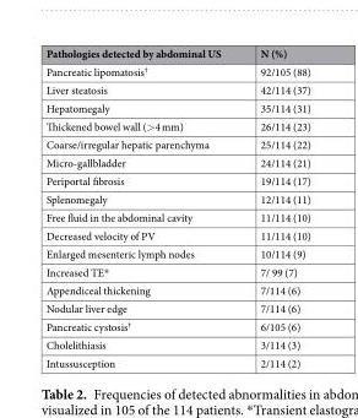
<table><thead><tr><td>Pathologies detected by abdominal US</td><td>N (%)</td></tr></thead><tbody><tr><td>Pancreatic lipomatosis<sup>†</sup></td><td>92/105 (88)</td></tr><tr><td>Liver steatosis</td><td>42/114 (37)</td></tr><tr><td>Hepatomegaly</td><td>35/114 (31)</td></tr><tr><td>Thickened bowel wall (&gt;4 mm)</td><td>26/114 (23)</td></tr><tr><td>Coarse/irregular hepatic parenchyma</td><td>25/114 (22)</td></tr><tr><td>Micro-gallbladder</td><td>24/114 (21)</td></tr><tr><td>Periportal fibrosis</td><td>19/114 (17)</td></tr><tr><td>Splenomegaly</td><td>12/114 (11)</td></tr><tr><td>Free fluid in the abdominal cavity</td><td>11/114 (10)</td></tr><tr><td>Decreased velocity of PV</td><td>11/114 (10)</td></tr><tr><td>Enlarged mesenteric lymph nodes</td><td>10/114 (9)</td></tr><tr><td>Increased TE*</td><td>7/ 99 (7)</td></tr><tr><td>Appendiceal thickening</td><td>7/114 (6)</td></tr><tr><td>Nodular liver edge</td><td>7/114 (6)</td></tr><tr><td>Pancreatic cystosis<sup>†</sup></td><td>6/105 (6)</td></tr><tr><td>Cholelithiasis</td><td>3/114 (3)</td></tr><tr><td>Intussusception</td><td>2/114 (2)</td></tr></tbody></table>